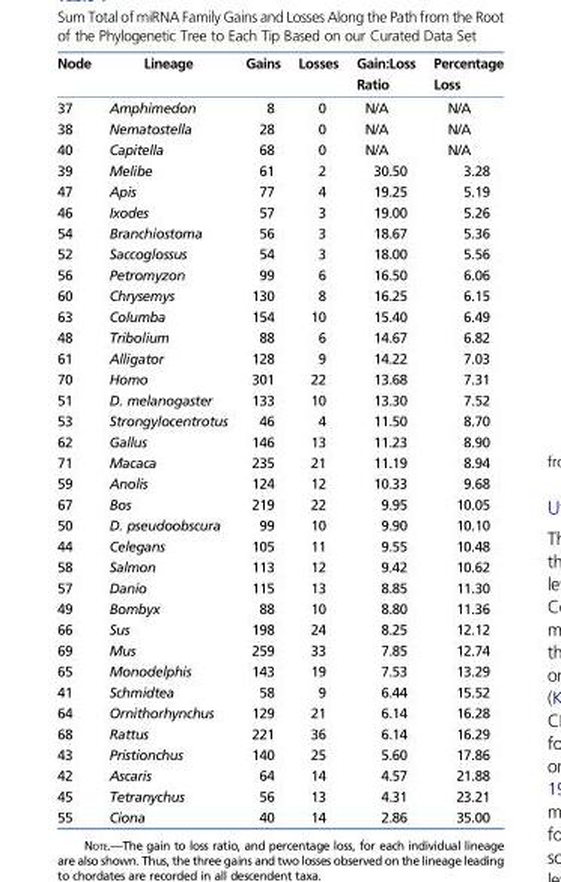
<table><thead><tr><td>Node</td><td>Lineage</td><td>Gains</td><td>Losses</td><td>Gain:Loss Ratio</td><td>Percentage Loss</td></tr></thead><tbody><tr><td>37</td><td>Amphimedon</td><td>8</td><td>0</td><td>N/A</td><td>N/A</td></tr><tr><td>38</td><td>Nematostella</td><td>28</td><td>0</td><td>N/A</td><td>N/A</td></tr><tr><td>40</td><td>Capitella</td><td>68</td><td>0</td><td>N/A</td><td>N/A</td></tr><tr><td>39</td><td>Melibe</td><td>61</td><td>2</td><td>30.50</td><td>3.28</td></tr><tr><td>47</td><td>Apis</td><td>77</td><td>4</td><td>19.25</td><td>5.19</td></tr><tr><td>46</td><td>Ixodes</td><td>57</td><td>3</td><td>19.00</td><td>5.26</td></tr><tr><td>54</td><td>Branchiostoma</td><td>56</td><td>3</td><td>18.67</td><td>5.36</td></tr><tr><td>52</td><td>Saccoglossus</td><td>54</td><td>3</td><td>18.00</td><td>5.56</td></tr><tr><td>56</td><td>Petromyzon</td><td>99</td><td>6</td><td>16.50</td><td>6.06</td></tr><tr><td>60</td><td>Chrysemys</td><td>130</td><td>8</td><td>16.25</td><td>6.15</td></tr><tr><td>63</td><td>Columba</td><td>154</td><td>10</td><td>15.40</td><td>6.49</td></tr><tr><td>48</td><td>Tribolium</td><td>88</td><td>6</td><td>14.67</td><td>6.82</td></tr><tr><td>61</td><td>Alligator</td><td>128</td><td>9</td><td>14.22</td><td>7.03</td></tr><tr><td>70</td><td>Homo</td><td>301</td><td>22</td><td>13.68</td><td>7.31</td></tr><tr><td>51</td><td>D. melanogaster</td><td>133</td><td>10</td><td>13.30</td><td>7.52</td></tr><tr><td>53</td><td>Strongylocentrotus</td><td>46</td><td>4</td><td>11.50</td><td>8.70</td></tr><tr><td>62</td><td>Gallus</td><td>146</td><td>13</td><td>11.23</td><td>8.90</td></tr><tr><td>71</td><td>Macaca</td><td>235</td><td>21</td><td>11.19</td><td>8.94</td></tr><tr><td>59</td><td>Anolis</td><td>124</td><td>12</td><td>10.33</td><td>9.68</td></tr><tr><td>67</td><td>Bos</td><td>219</td><td>22</td><td>9.95</td><td>10.05</td></tr><tr><td>50</td><td>D. pseudoobscura</td><td>99</td><td>10</td><td>9.90</td><td>10.10</td></tr><tr><td>44</td><td>Celegans</td><td>105</td><td>11</td><td>9.55</td><td>10.48</td></tr><tr><td>58</td><td>Salmon</td><td>113</td><td>12</td><td>9.42</td><td>10.62</td></tr><tr><td>57</td><td>Danio</td><td>115</td><td>13</td><td>8.85</td><td>11.30</td></tr><tr><td>49</td><td>Bombyx</td><td>88</td><td>10</td><td>8.80</td><td>11.36</td></tr><tr><td>66</td><td>Sus</td><td>198</td><td>24</td><td>8.25</td><td>12.12</td></tr><tr><td>69</td><td>Mus</td><td>259</td><td>33</td><td>7.85</td><td>12.74</td></tr><tr><td>65</td><td>Monodelphis</td><td>143</td><td>19</td><td>7.53</td><td>13.29</td></tr><tr><td>41</td><td>Schmidtea</td><td>58</td><td>9</td><td>6.44</td><td>15.52</td></tr><tr><td>64</td><td>Ornithorhynchus</td><td>129</td><td>21</td><td>6.14</td><td>16.28</td></tr><tr><td>68</td><td>Rattus</td><td>221</td><td>36</td><td>6.14</td><td>16.29</td></tr><tr><td>43</td><td>Pristionchus</td><td>140</td><td>25</td><td>5.60</td><td>17.86</td></tr><tr><td>42</td><td>Ascaris</td><td>64</td><td>14</td><td>4.57</td><td>21.88</td></tr><tr><td>45</td><td>Tetranychus</td><td>56</td><td>13</td><td>4.31</td><td>23.21</td></tr><tr><td>55</td><td>Ciona</td><td>40</td><td>14</td><td>2.86</td><td>35.00</td></tr></tbody></table>